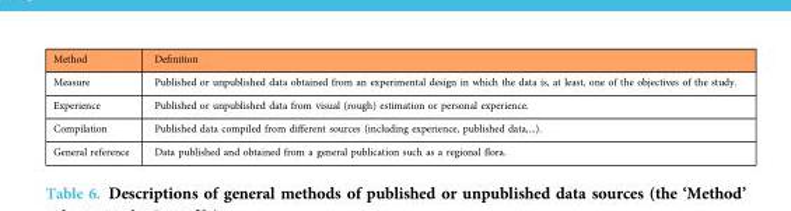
<table><thead><tr><td>Method</td><td>Definition</td></tr></thead><tbody><tr><td>Measure</td><td>Published or unpublished data obtained from an experimental design in which the data is, at least, one of the objectives of the study.</td></tr><tr><td>Experience</td><td>Published or unpublished data from visual (rough) estimation or personal experience.</td></tr><tr><td>Compilation</td><td>Published data compiled from different sources (including experience, published data,...).</td></tr><tr><td>General reference</td><td>Data published and obtained from a general publication such as a regional flora.</td></tr></tbody></table>